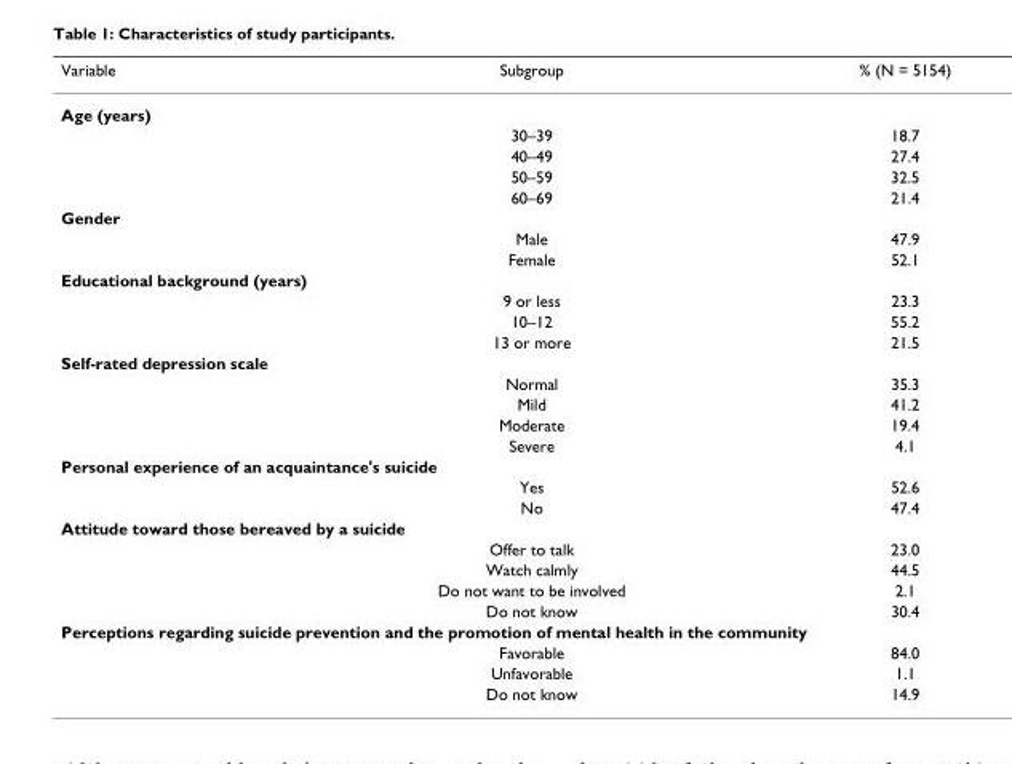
<table><thead><tr><td>Variable</td><td>Subgroup</td><td>% (N = 5154)</td></tr></thead><tbody><tr><td colspan="3">Age (years)</td></tr><tr><td></td><td>30–39</td><td>18.7</td></tr><tr><td></td><td>40–49</td><td>27.4</td></tr><tr><td></td><td>50–59</td><td>32.5</td></tr><tr><td></td><td>60–69</td><td>21.4</td></tr><tr><td colspan="3">Gender</td></tr><tr><td></td><td>Male</td><td>47.9</td></tr><tr><td></td><td>Female</td><td>52.1</td></tr><tr><td colspan="3">Educational background (years)</td></tr><tr><td></td><td>9 or less</td><td>23.3</td></tr><tr><td></td><td>10–12</td><td>55.2</td></tr><tr><td></td><td>13 or more</td><td>21.5</td></tr><tr><td colspan="3">Self-rated depression scale</td></tr><tr><td></td><td>Normal</td><td>35.3</td></tr><tr><td></td><td>Mild</td><td>41.2</td></tr><tr><td></td><td>Moderate</td><td>19.4</td></tr><tr><td></td><td>Severe</td><td>4.1</td></tr><tr><td colspan="3">Personal experience of an acquaintance&#x27;s suicide</td></tr><tr><td></td><td>Yes</td><td>52.6</td></tr><tr><td></td><td>No</td><td>47.4</td></tr><tr><td colspan="3">Attitude toward those bereaved by a suicide</td></tr><tr><td></td><td>Offer to talk</td><td>23.0</td></tr><tr><td></td><td>Watch calmly</td><td>44.5</td></tr><tr><td></td><td>Do not want to be involved</td><td>2.1</td></tr><tr><td></td><td>Do not know</td><td>30.4</td></tr><tr><td colspan="3">Perceptions regarding suicide prevention and the promotion of mental health in the community</td></tr><tr><td></td><td>Favorable</td><td>84.0</td></tr><tr><td></td><td>Unfavorable</td><td>1.1</td></tr><tr><td></td><td>Do not know</td><td>14.9</td></tr></tbody></table>